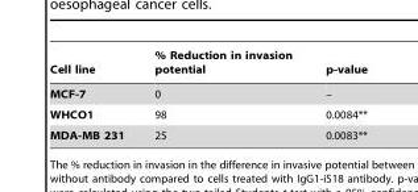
<table><thead><tr><td>Cell line</td><td>% Reduction in invasion potential</td><td>p-value</td></tr></thead><tbody><tr><td>MCF-7</td><td>0</td><td>–</td></tr><tr><td>WHCO1</td><td>98</td><td>0.0084**</td></tr><tr><td>MDA-MB 231</td><td>25</td><td>0.0083**</td></tr></tbody></table>